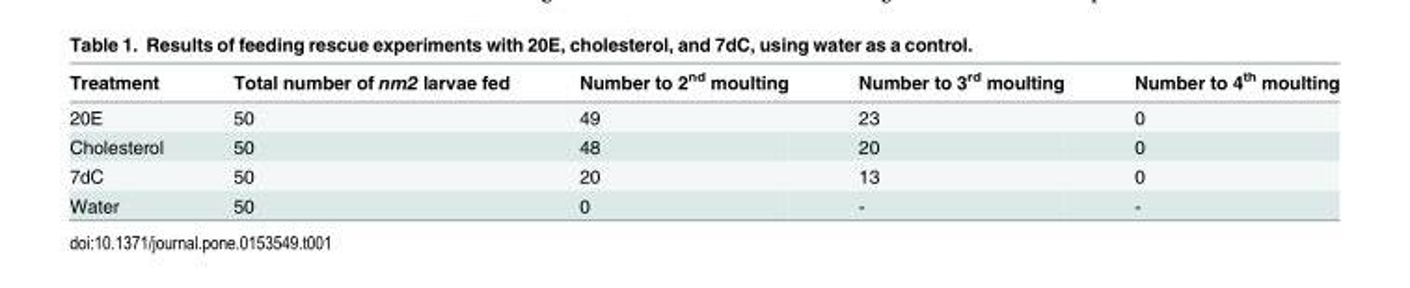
<table><thead><tr><td>Treatment</td><td>Total number of nm2 larvae fed</td><td>Number to 2<sup>nd</sup> moulting</td><td>Number to 3<sup>rd</sup> moulting</td><td>Number to 4<sup>th</sup> moulting</td></tr></thead><tbody><tr><td>20E</td><td>50</td><td>49</td><td>23</td><td>0</td></tr><tr><td>Cholesterol</td><td>50</td><td>48</td><td>20</td><td>0</td></tr><tr><td>7dC</td><td>50</td><td>20</td><td>13</td><td>0</td></tr><tr><td>Water</td><td>50</td><td>0</td><td>-</td><td>-</td></tr></tbody></table>